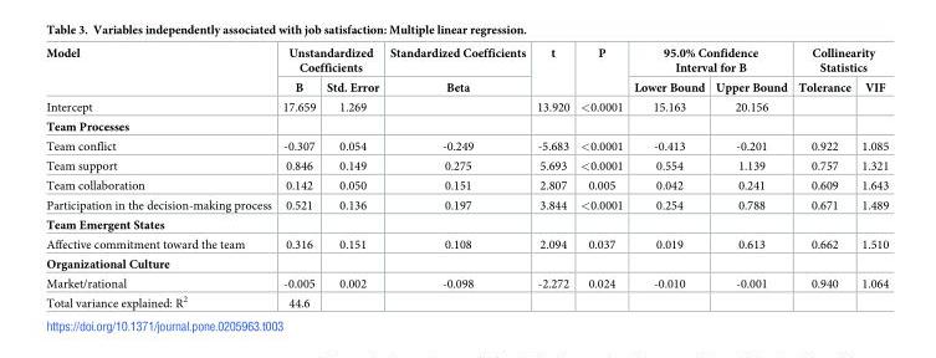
<table><thead><tr><td rowspan="2">Model</td><td colspan="2">Unstandardized Coefficients</td><td rowspan="2">Standardized Coefficients Beta</td><td rowspan="2">t</td><td rowspan="2">P</td><td colspan="2">95.0% Confidence Interval for B</td><td colspan="2">Collinearity Statistics</td></tr><tr><td>B</td><td>Std. Error</td><td>Lower Bound</td><td>Upper Bound</td><td>Tolerance</td><td>VIF</td></tr></thead><tbody><tr><td>Intercept</td><td>17.659</td><td>1.269</td><td></td><td>13.920</td><td>&lt;0.0001</td><td>15.163</td><td>20.156</td><td></td><td></td></tr><tr><td colspan="10">Team Processes</td></tr><tr><td>Team conflict</td><td>-0.307</td><td>0.054</td><td>-0.249</td><td>-5.683</td><td>&lt;0.0001</td><td>-0.413</td><td>-0.201</td><td>0.922</td><td>1.085</td></tr><tr><td>Team support</td><td>0.846</td><td>0.149</td><td>0.275</td><td>5.693</td><td>&lt;0.0001</td><td>0.554</td><td>1.139</td><td>0.757</td><td>1.321</td></tr><tr><td>Team collaboration</td><td>0.142</td><td>0.050</td><td>0.151</td><td>2.807</td><td>0.005</td><td>0.042</td><td>0.241</td><td>0.609</td><td>1.643</td></tr><tr><td>Participation in the decision-making process</td><td>0.521</td><td>0.136</td><td>0.197</td><td>3.844</td><td>&lt;0.0001</td><td>0.254</td><td>0.788</td><td>0.671</td><td>1.489</td></tr><tr><td colspan="10">Team Emergent States</td></tr><tr><td>Affective commitment toward the team</td><td>0.316</td><td>0.151</td><td>0.108</td><td>2.094</td><td>0.037</td><td>0.019</td><td>0.613</td><td>0.662</td><td>1.510</td></tr><tr><td colspan="10">Organizational Culture</td></tr><tr><td>Market/rational</td><td>-0.005</td><td>0.002</td><td>-0.098</td><td>-2.272</td><td>0.024</td><td>-0.010</td><td>-0.001</td><td>0.940</td><td>1.064</td></tr><tr><td>Total variance explained: R<sup>2</sup></td><td>44.6</td><td></td><td></td><td></td><td></td><td></td><td></td><td></td><td></td></tr></tbody></table>